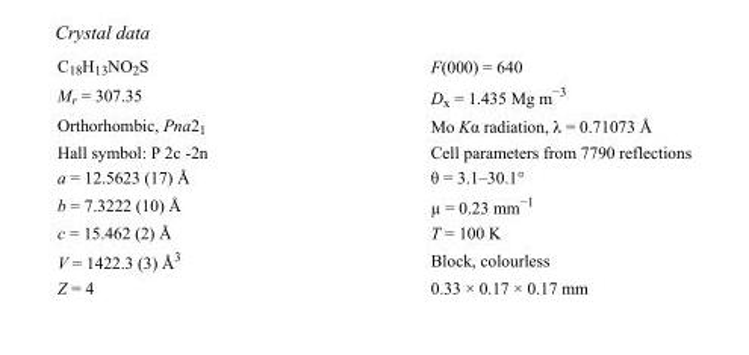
<table><tbody><tr><td>C<sub>18</sub>H<sub>13</sub>NO<sub>2</sub>S</td><td>F(000) = 640</td></tr><tr><td>M<sub>r</sub> = 307.35</td><td>D<sub>x</sub> = 1.435 Mg m<sup>−3</sup></td></tr><tr><td>Orthorhombic, Pna2<sub>1</sub></td><td>Mo Kα radiation, λ = 0.71073 Å</td></tr><tr><td>Hall symbol: P 2c -2n</td><td>Cell parameters from 7790 reflections</td></tr><tr><td>a = 12.5623 (17) Å</td><td>θ = 3.1–30.1°</td></tr><tr><td>b = 7.3222 (10) Å</td><td>µ = 0.23 mm<sup>−1</sup></td></tr><tr><td>c = 15.462 (2) Å</td><td>T = 100 K</td></tr><tr><td>V = 1422.3 (3) Å<sup>3</sup></td><td>Block, colourless</td></tr><tr><td>Z = 4</td><td>0.33 × 0.17 × 0.17 mm</td></tr></tbody></table>